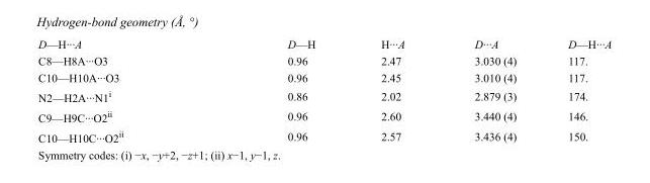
<table><tbody><tr><td>D—H···A</td><td>D—H</td><td>H···A</td><td>D···A</td><td>D—H···A</td></tr><tr><td>C8—H8A···O3</td><td>0.96</td><td>2.47</td><td>3.030 (4)</td><td>117.</td></tr><tr><td>C10—H10A···O3</td><td>0.96</td><td>2.45</td><td>3.010 (4)</td><td>117.</td></tr><tr><td>N2—H2A···N1<sup>i</sup></td><td>0.86</td><td>2.02</td><td>2.879 (3)</td><td>174.</td></tr><tr><td>C9—H9C···O2<sup>ii</sup></td><td>0.96</td><td>2.60</td><td>3.440 (4)</td><td>146.</td></tr><tr><td>C10—H10C···O2<sup>ii</sup></td><td>0.96</td><td>2.57</td><td>3.436 (4)</td><td>150.</td></tr></tbody></table>